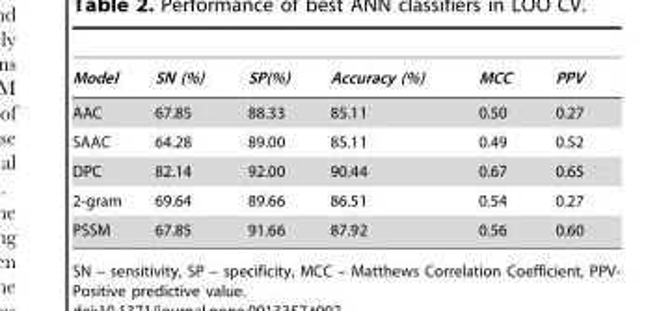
<table><thead><tr><td>Model</td><td>SN (%)</td><td>SP(%)</td><td>Accuracy (%)</td><td>MCC</td><td>PPV</td></tr></thead><tbody><tr><td>AAC</td><td>67.85</td><td>88.33</td><td>85.11</td><td>0.50</td><td>0.27</td></tr><tr><td>SAAC</td><td>64.28</td><td>89.00</td><td>85.11</td><td>0.49</td><td>0.52</td></tr><tr><td>DPC</td><td>82.14</td><td>92.00</td><td>90.44</td><td>0.67</td><td>0.65</td></tr><tr><td>2-gram</td><td>69.64</td><td>89.66</td><td>86.51</td><td>0.54</td><td>0.27</td></tr><tr><td>PSSM</td><td>67.85</td><td>91.66</td><td>87.92</td><td>0.56</td><td>0.60</td></tr></tbody></table>